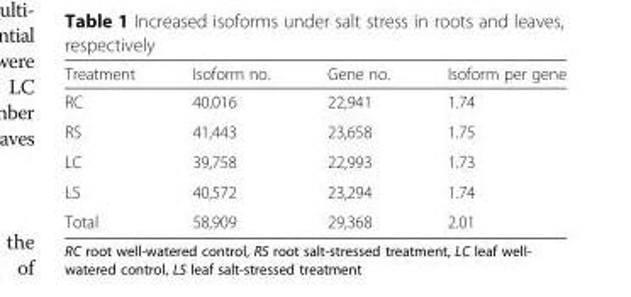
<table><thead><tr><td>Treatment</td><td>Isoform no.</td><td>Gene no.</td><td>Isoform per gene</td></tr></thead><tbody><tr><td>RC</td><td>40,016</td><td>22,941</td><td>1.74</td></tr><tr><td>RS</td><td>41,443</td><td>23,658</td><td>1.75</td></tr><tr><td>LC</td><td>39,758</td><td>22,993</td><td>1.73</td></tr><tr><td>LS</td><td>40,572</td><td>23,294</td><td>1.74</td></tr><tr><td>Total</td><td>58,909</td><td>29,368</td><td>2.01</td></tr></tbody></table>